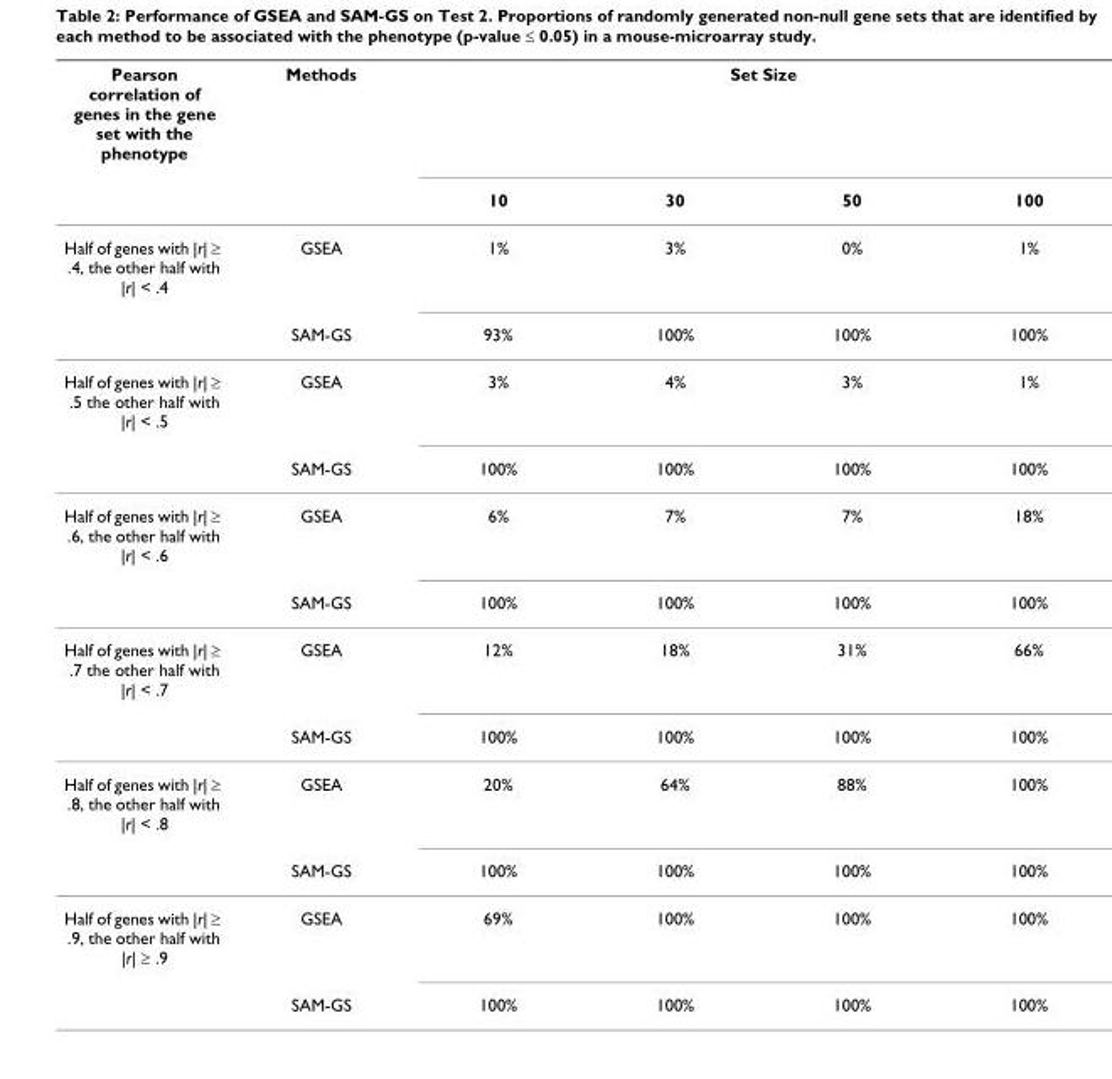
<table><thead><tr><td rowspan="2">Pearson correlation of genes in the gene set with the phenotype</td><td rowspan="2">Methods</td><td colspan="4">Set Size</td></tr><tr><td>10</td><td>30</td><td>50</td><td>100</td></tr></thead><tbody><tr><td rowspan="2">Half of genes with |r| ≥ .4, the other half with |r| &lt; .4</td><td>GSEA</td><td>1%</td><td>3%</td><td>0%</td><td>1%</td></tr><tr><td>SAM-GS</td><td>93%</td><td>100%</td><td>100%</td><td>100%</td></tr><tr><td rowspan="2">Half of genes with |r| ≥ .5 the other half with |r| &lt; .5</td><td>GSEA</td><td>3%</td><td>4%</td><td>3%</td><td>1%</td></tr><tr><td>SAM-GS</td><td>100%</td><td>100%</td><td>100%</td><td>100%</td></tr><tr><td rowspan="2">Half of genes with |r| ≥ .6, the other half with |r| &lt; .6</td><td>GSEA</td><td>6%</td><td>7%</td><td>7%</td><td>18%</td></tr><tr><td>SAM-GS</td><td>100%</td><td>100%</td><td>100%</td><td>100%</td></tr><tr><td rowspan="2">Half of genes with |r| ≥ .7 the other half with |r| &lt; .7</td><td>GSEA</td><td>12%</td><td>18%</td><td>31%</td><td>66%</td></tr><tr><td>SAM-GS</td><td>100%</td><td>100%</td><td>100%</td><td>100%</td></tr><tr><td rowspan="2">Half of genes with |r| ≥ .8, the other half with |r| &lt; .8</td><td>GSEA</td><td>20%</td><td>64%</td><td>88%</td><td>100%</td></tr><tr><td>SAM-GS</td><td>100%</td><td>100%</td><td>100%</td><td>100%</td></tr><tr><td rowspan="2">Half of genes with |r| ≥ .9, the other half with |r| ≥ .9</td><td>GSEA</td><td>69%</td><td>100%</td><td>100%</td><td>100%</td></tr><tr><td>SAM-GS</td><td>100%</td><td>100%</td><td>100%</td><td>100%</td></tr></tbody></table>